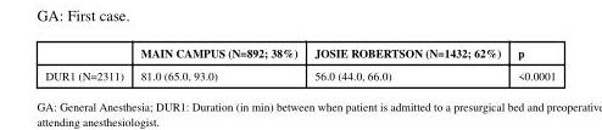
<table><thead><tr><td></td><td>MAIN CAMPUS (N=892; 38%)</td><td>JOSIE ROBERTSON (N=1432; 62%)</td><td>p</td></tr></thead><tbody><tr><td>DUR1 (N=2311)</td><td>81.0 (65.0, 93.0)</td><td>56.0 (44.0, 66.0)</td><td>&lt;0.0001</td></tr></tbody></table>